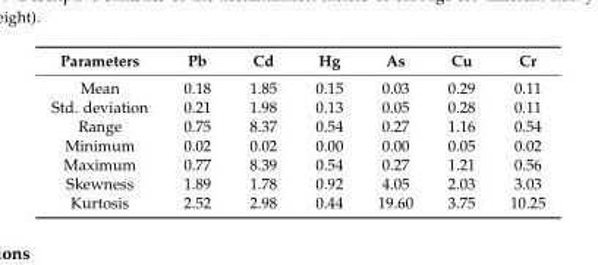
<table><thead><tr><td>Parameters</td><td>Pb</td><td>Cd</td><td>Hg</td><td>As</td><td>Cu</td><td>Cr</td></tr></thead><tbody><tr><td>Mean</td><td>0.18</td><td>1.85</td><td>0.15</td><td>0.03</td><td>0.29</td><td>0.11</td></tr><tr><td>Std. deviation</td><td>0.21</td><td>1.98</td><td>0.13</td><td>0.05</td><td>0.28</td><td>0.11</td></tr><tr><td>Range</td><td>0.75</td><td>8.37</td><td>0.54</td><td>0.27</td><td>1.16</td><td>0.54</td></tr><tr><td>Minimum</td><td>0.02</td><td>0.02</td><td>0.00</td><td>0.00</td><td>0.05</td><td>0.02</td></tr><tr><td>Maximum</td><td>0.77</td><td>8.39</td><td>0.54</td><td>0.27</td><td>1.21</td><td>0.56</td></tr><tr><td>Skewness</td><td>1.89</td><td>1.78</td><td>0.92</td><td>4.05</td><td>2.03</td><td>3.03</td></tr><tr><td>Kurtosis</td><td>2.52</td><td>2.98</td><td>0.44</td><td>19.60</td><td>3.75</td><td>10.25</td></tr></tbody></table>